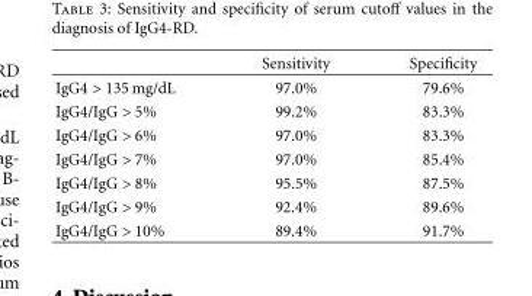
<table><thead><tr><td></td><td>Sensitivity</td><td>Specificity</td></tr></thead><tbody><tr><td>IgG4 &gt; 135 mg/dL</td><td>97.0%</td><td>79.6%</td></tr><tr><td>IgG4/IgG &gt; 5%</td><td>99.2%</td><td>83.3%</td></tr><tr><td>IgG4/IgG &gt; 6%</td><td>97.0%</td><td>83.3%</td></tr><tr><td>IgG4/IgG &gt; 7%</td><td>97.0%</td><td>85.4%</td></tr><tr><td>IgG4/IgG &gt; 8%</td><td>95.5%</td><td>87.5%</td></tr><tr><td>IgG4/IgG &gt; 9%</td><td>92.4%</td><td>89.6%</td></tr><tr><td>IgG4/IgG &gt; 10%</td><td>89.4%</td><td>91.7%</td></tr></tbody></table>